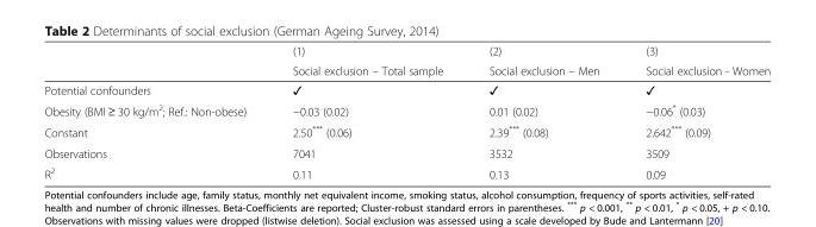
<table><thead><tr><td rowspan="2"></td><td rowspan="2">(1) Social exclusion – Total sample</td><td rowspan="2">(2) Social exclusion – Men</td><td rowspan="2">(3) Social exclusion - Women</td></tr><tr></tr></thead><tbody><tr><td>Potential confounders</td><td>✓</td><td>✓</td><td>✓</td></tr><tr><td>Obesity (BMI ≥ 30 kg/m<sup>2</sup>; Ref.: Non-obese)</td><td>−0.03 (0.02)</td><td>0.01 (0.02)</td><td>−0.06* (0.03)</td></tr><tr><td>Constant</td><td>2.50*** (0.06)</td><td>2.39*** (0.08)</td><td>2.642*** (0.09)</td></tr><tr><td>Observations</td><td>7041</td><td>3532</td><td>3509</td></tr><tr><td>R<sup>2</sup></td><td>0.11</td><td>0.13</td><td>0.09</td></tr></tbody></table>